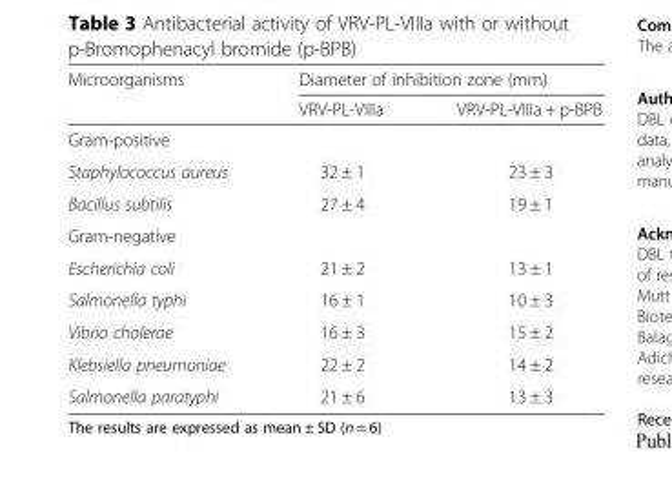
<table><thead><tr><td rowspan="2">Microorganisms</td><td colspan="2">Diameter of inhibition zone (mm)</td></tr><tr><td>VRV-PL-VIIIa</td><td>VRV-PL-VIIIa + p-BPB</td></tr></thead><tbody><tr><td colspan="3">Gram-positive</td></tr><tr><td>Staphylococcus aureus</td><td>32 ± 1</td><td>23 ± 3</td></tr><tr><td>Bacillus subtilis</td><td>27 ± 4</td><td>19 ± 1</td></tr><tr><td colspan="3">Gram-negative</td></tr><tr><td>Escherichia coli</td><td>21 ± 2</td><td>13 ± 1</td></tr><tr><td>Salmonella typhi</td><td>16 ± 1</td><td>10 ± 3</td></tr><tr><td>Vibrio cholerae</td><td>16 ± 3</td><td>15 ± 2</td></tr><tr><td>Klebsiella pneumoniae</td><td>22 ± 2</td><td>14 ± 2</td></tr><tr><td>Salmonella paratyphi</td><td>21 ± 6</td><td>13 ± 3</td></tr></tbody></table>